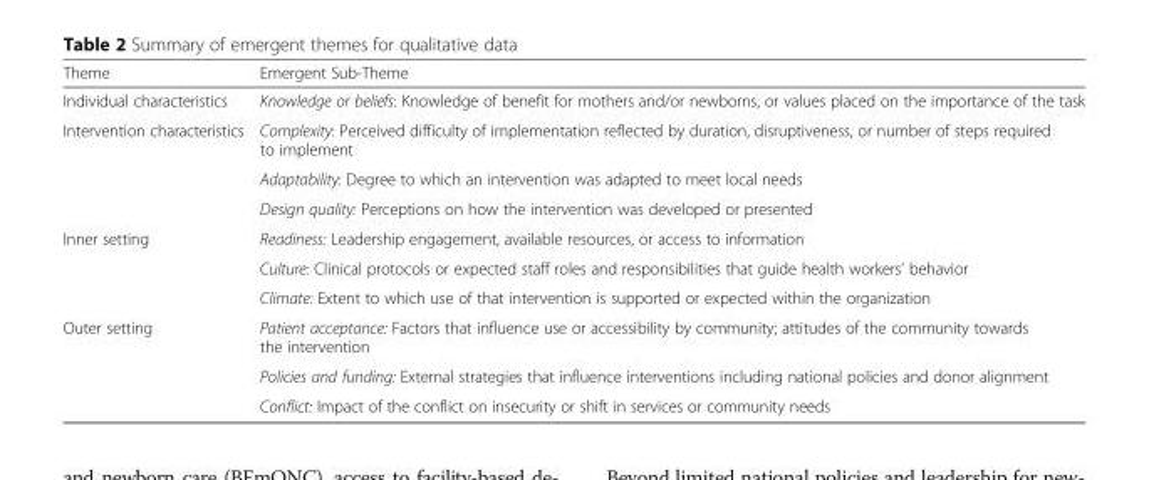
<table><thead><tr><td>Theme</td><td>Emergent Sub-Theme</td></tr></thead><tbody><tr><td>Individual characteristics</td><td>Knowledge or beliefs: Knowledge of benefit for mothers and/or newborns, or values placed on the importance of the task</td></tr><tr><td rowspan="3">Intervention characteristics</td><td>Complexity: Perceived difficulty of implementation reflected by duration, disruptiveness, or number of steps required to implement</td></tr><tr><td>Adaptability: Degree to which an intervention was adapted to meet local needs</td></tr><tr><td>Design quality: Perceptions on how the intervention was developed or presented</td></tr><tr><td rowspan="3">Inner setting</td><td>Readiness: Leadership engagement, available resources, or access to information</td></tr><tr><td>Culture: Clinical protocols or expected staff roles and responsibilities that guide health workers’ behavior</td></tr><tr><td>Climate: Extent to which use of that intervention is supported or expected within the organization</td></tr><tr><td rowspan="3">Outer setting</td><td>Patient acceptance: Factors that influence use or accessibility by community; attitudes of the community towards the intervention</td></tr><tr><td>Policies and funding: External strategies that influence interventions including national policies and donor alignment</td></tr><tr><td>Conflict: Impact of the conflict on insecurity or shift in services or community needs</td></tr></tbody></table>